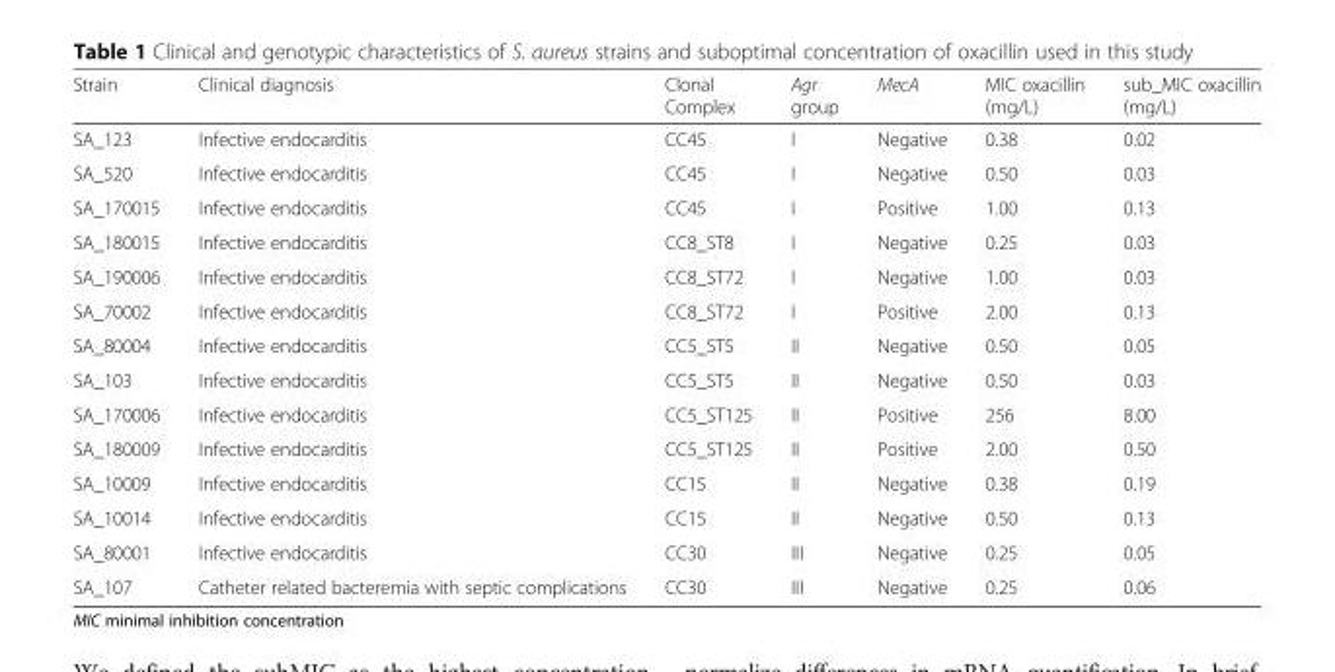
<table><thead><tr><td>Strain</td><td>Clinical diagnosis</td><td>Clonal Complex</td><td>Agr group</td><td>MecA</td><td>MIC oxacillin (mg/L)</td><td>sub_MIC oxacillin (mg/L)</td></tr></thead><tbody><tr><td>SA_123</td><td>Infective endocarditis</td><td>CC45</td><td>I</td><td>Negative</td><td>0.38</td><td>0.02</td></tr><tr><td>SA_520</td><td>Infective endocarditis</td><td>CC45</td><td>I</td><td>Negative</td><td>0.50</td><td>0.03</td></tr><tr><td>SA_170015</td><td>Infective endocarditis</td><td>CC45</td><td>I</td><td>Positive</td><td>1.00</td><td>0.13</td></tr><tr><td>SA_180015</td><td>Infective endocarditis</td><td>CC8_ST8</td><td>I</td><td>Negative</td><td>0.25</td><td>0.03</td></tr><tr><td>SA_190006</td><td>Infective endocarditis</td><td>CC8_ST72</td><td>I</td><td>Negative</td><td>1.00</td><td>0.03</td></tr><tr><td>SA_70002</td><td>Infective endocarditis</td><td>CC8_ST72</td><td>I</td><td>Positive</td><td>2.00</td><td>0.13</td></tr><tr><td>SA_80004</td><td>Infective endocarditis</td><td>CC5_ST5</td><td>II</td><td>Negative</td><td>0.50</td><td>0.05</td></tr><tr><td>SA_103</td><td>Infective endocarditis</td><td>CC5_ST5</td><td>II</td><td>Negative</td><td>0.50</td><td>0.03</td></tr><tr><td>SA_170006</td><td>Infective endocarditis</td><td>CC5_ST125</td><td>II</td><td>Positive</td><td>256</td><td>8.00</td></tr><tr><td>SA_180009</td><td>Infective endocarditis</td><td>CC5_ST125</td><td>II</td><td>Positive</td><td>2.00</td><td>0.50</td></tr><tr><td>SA_10009</td><td>Infective endocarditis</td><td>CC15</td><td>II</td><td>Negative</td><td>0.38</td><td>0.19</td></tr><tr><td>SA_10014</td><td>Infective endocarditis</td><td>CC15</td><td>II</td><td>Negative</td><td>0.50</td><td>0.13</td></tr><tr><td>SA_80001</td><td>Infective endocarditis</td><td>CC30</td><td>III</td><td>Negative</td><td>0.25</td><td>0.05</td></tr><tr><td>SA_107</td><td>Catheter related bacteremia with septic complications</td><td>CC30</td><td>III</td><td>Negative</td><td>0.25</td><td>0.06</td></tr></tbody></table>